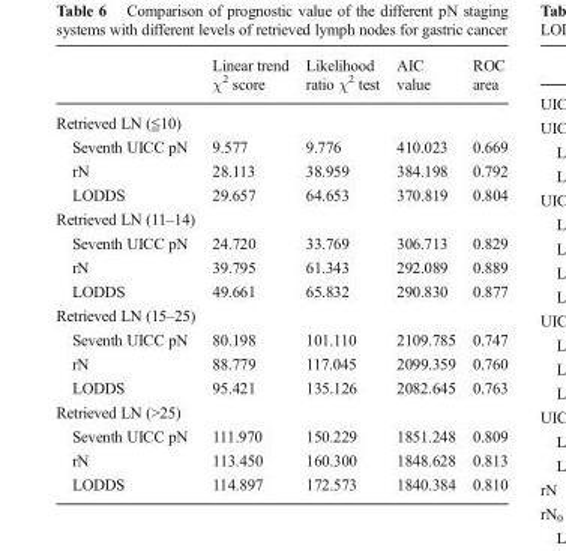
<table><thead><tr><td></td><td>Linear trend χ<sup>2</sup> score</td><td>Likelihood ratio χ<sup>2</sup> test</td><td>AIC value</td><td>ROC area</td></tr></thead><tbody><tr><td colspan="5">Retrieved LN (≦10)</td></tr><tr><td>Seventh UICC pN</td><td>9.577</td><td>9.776</td><td>410.023</td><td>0.669</td></tr><tr><td>rN</td><td>28.113</td><td>38.959</td><td>384.198</td><td>0.792</td></tr><tr><td>LODDS</td><td>29.657</td><td>64.653</td><td>370.819</td><td>0.804</td></tr><tr><td colspan="5">Retrieved LN (11–14)</td></tr><tr><td>Seventh UICC pN</td><td>24.720</td><td>33.769</td><td>306.713</td><td>0.829</td></tr><tr><td>rN</td><td>39.795</td><td>61.343</td><td>292.089</td><td>0.889</td></tr><tr><td>LODDS</td><td>49.661</td><td>65.832</td><td>290.830</td><td>0.877</td></tr><tr><td colspan="5">Retrieved LN (15–25)</td></tr><tr><td>Seventh UICC pN</td><td>80.198</td><td>101.110</td><td>2109.785</td><td>0.747</td></tr><tr><td>rN</td><td>88.779</td><td>117.045</td><td>2099.359</td><td>0.760</td></tr><tr><td>LODDS</td><td>95.421</td><td>135.126</td><td>2082.645</td><td>0.763</td></tr><tr><td colspan="5">Retrieved LN (&gt;25)</td></tr><tr><td>Seventh UICC pN</td><td>111.970</td><td>150.229</td><td>1851.248</td><td>0.809</td></tr><tr><td>rN</td><td>113.450</td><td>160.300</td><td>1848.628</td><td>0.813</td></tr><tr><td>LODDS</td><td>114.897</td><td>172.573</td><td>1840.384</td><td>0.810</td></tr></tbody></table>